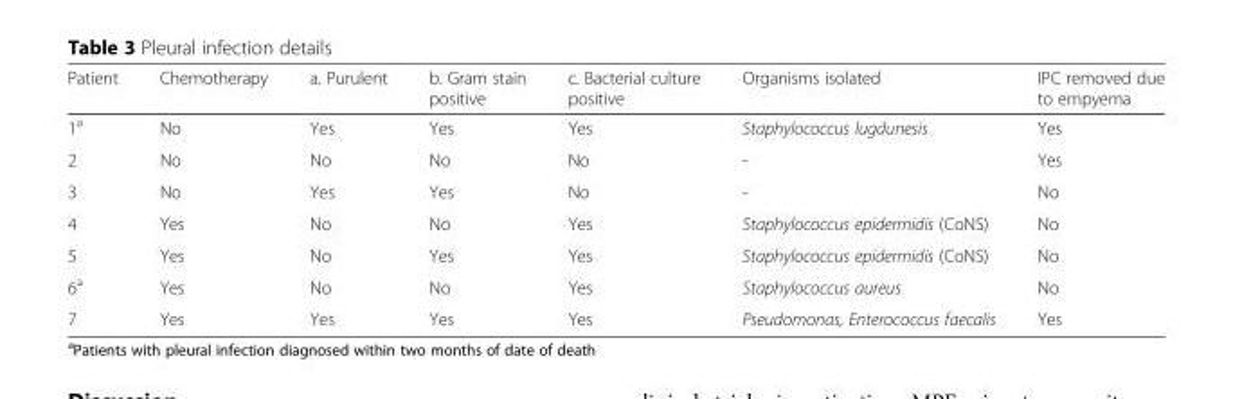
<table><thead><tr><td>Patient</td><td>Chemotherapy</td><td>a. Purulent</td><td>b. Gram stain positive</td><td>c. Bacterial culture positive</td><td>Organisms isolated</td><td>IPC removed due to empyema</td></tr></thead><tbody><tr><td>1<sup>a</sup></td><td>No</td><td>Yes</td><td>Yes</td><td>Yes</td><td>Staphylococcus lugdunesis</td><td>Yes</td></tr><tr><td>2</td><td>No</td><td>No</td><td>No</td><td>No</td><td>-</td><td>Yes</td></tr><tr><td>3</td><td>No</td><td>Yes</td><td>Yes</td><td>No</td><td>-</td><td>No</td></tr><tr><td>4</td><td>Yes</td><td>No</td><td>No</td><td>Yes</td><td>Staphylococcus epidermidis (CoNS)</td><td>No</td></tr><tr><td>5</td><td>Yes</td><td>No</td><td>Yes</td><td>Yes</td><td>Staphylococcus epidermidis (CoNS)</td><td>No</td></tr><tr><td>6<sup>a</sup></td><td>Yes</td><td>No</td><td>No</td><td>Yes</td><td>Staphylococcus aureus</td><td>No</td></tr><tr><td>7</td><td>Yes</td><td>Yes</td><td>Yes</td><td>Yes</td><td>Pseudomonas, Enterococcus faecalis</td><td>Yes</td></tr></tbody></table>